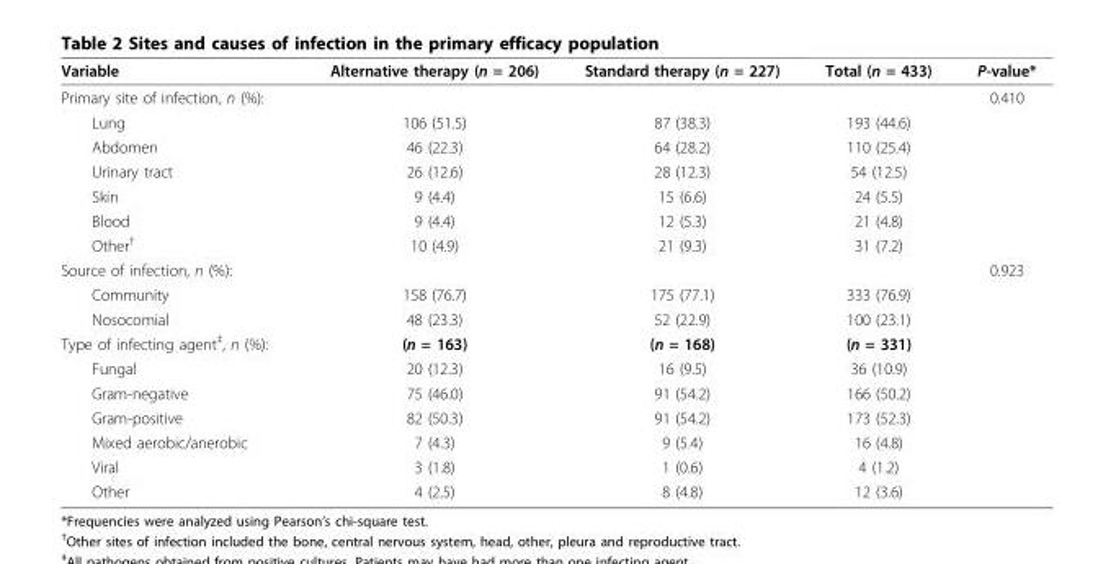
<table><thead><tr><td>Variable</td><td>Alternative therapy (n = 206)</td><td>Standard therapy (n = 227)</td><td>Total (n = 433)</td><td>P-value*</td></tr></thead><tbody><tr><td>Primary site of infection, n (%):</td><td></td><td></td><td></td><td>0.410</td></tr><tr><td>Lung</td><td>106 (51.5)</td><td>87 (38.3)</td><td>193 (44.6)</td><td></td></tr><tr><td>Abdomen</td><td>46 (22.3)</td><td>64 (28.2)</td><td>110 (25.4)</td><td></td></tr><tr><td>Urinary tract</td><td>26 (12.6)</td><td>28 (12.3)</td><td>54 (12.5)</td><td></td></tr><tr><td>Skin</td><td>9 (4.4)</td><td>15 (6.6)</td><td>24 (5.5)</td><td></td></tr><tr><td>Blood</td><td>9 (4.4)</td><td>12 (5.3)</td><td>21 (4.8)</td><td></td></tr><tr><td>Other<sup>†</sup></td><td>10 (4.9)</td><td>21 (9.3)</td><td>31 (7.2)</td><td></td></tr><tr><td>Source of infection, n (%):</td><td></td><td></td><td></td><td>0.923</td></tr><tr><td>Community</td><td>158 (76.7)</td><td>175 (77.1)</td><td>333 (76.9)</td><td></td></tr><tr><td>Nosocomial</td><td>48 (23.3)</td><td>52 (22.9)</td><td>100 (23.1)</td><td></td></tr><tr><td>Type of infecting agent<sup>‡</sup>, n (%):</td><td>(n = 163)</td><td>(n = 168)</td><td>(n = 331)</td><td></td></tr><tr><td>Fungal</td><td>20 (12.3)</td><td>16 (9.5)</td><td>36 (10.9)</td><td></td></tr><tr><td>Gram-negative</td><td>75 (46.0)</td><td>91 (54.2)</td><td>166 (50.2)</td><td></td></tr><tr><td>Gram-positive</td><td>82 (50.3)</td><td>91 (54.2)</td><td>173 (52.3)</td><td></td></tr><tr><td>Mixed aerobic/anerobic</td><td>7 (4.3)</td><td>9 (5.4)</td><td>16 (4.8)</td><td></td></tr><tr><td>Viral</td><td>3 (1.8)</td><td>1 (0.6)</td><td>4 (1.2)</td><td></td></tr><tr><td>Other</td><td>4 (2.5)</td><td>8 (4.8)</td><td>12 (3.6)</td><td></td></tr></tbody></table>